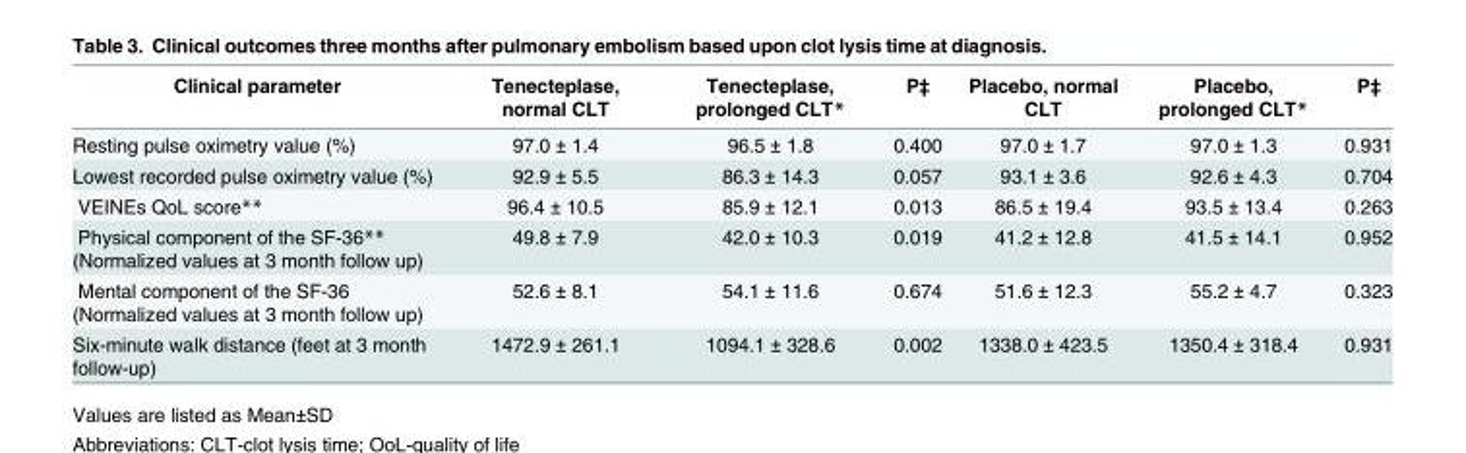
<table><thead><tr><td>Clinical parameter</td><td>Tenecteplase, normal CLT</td><td>Tenecteplase, prolonged CLT*</td><td>P‡</td><td>Placebo, normal CLT</td><td>Placebo, prolonged CLT*</td><td>P‡</td></tr></thead><tbody><tr><td>Resting pulse oximetry value (%)</td><td>97.0 ± 1.4</td><td>96.5 ± 1.8</td><td>0.400</td><td>97.0 ± 1.7</td><td>97.0 ± 1.3</td><td>0.931</td></tr><tr><td>Lowest recorded pulse oximetry value (%)</td><td>92.9 ± 5.5</td><td>86.3 ± 14.3</td><td>0.057</td><td>93.1 ± 3.6</td><td>92.6 ± 4.3</td><td>0.704</td></tr><tr><td>VEINEs QoL score**</td><td>96.4 ± 10.5</td><td>85.9 ± 12.1</td><td>0.013</td><td>86.5 ± 19.4</td><td>93.5 ± 13.4</td><td>0.263</td></tr><tr><td>Physical component of the SF-36** (Normalized values at 3 month follow up)</td><td>49.8 ± 7.9</td><td>42.0 ± 10.3</td><td>0.019</td><td>41.2 ± 12.8</td><td>41.5 ± 14.1</td><td>0.952</td></tr><tr><td>Mental component of the SF-36 (Normalized values at 3 month follow up)</td><td>52.6 ± 8.1</td><td>54.1 ± 11.6</td><td>0.674</td><td>51.6 ± 12.3</td><td>55.2 ± 4.7</td><td>0.323</td></tr><tr><td>Six-minute walk distance (feet at 3 month follow-up)</td><td>1472.9 ± 261.1</td><td>1094.1 ± 328.6</td><td>0.002</td><td>1338.0 ± 423.5</td><td>1350.4 ± 318.4</td><td>0.931</td></tr></tbody></table>